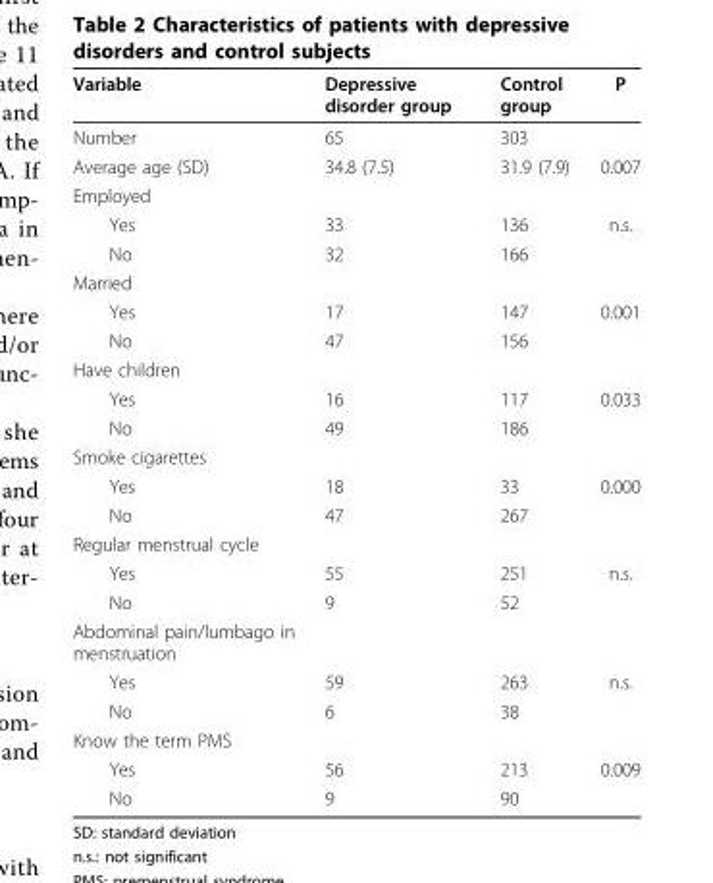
<table><thead><tr><td>Variable</td><td>Depressive disorder group</td><td>Control group</td><td>P</td></tr></thead><tbody><tr><td>Number</td><td>65</td><td>303</td><td></td></tr><tr><td>Average age (SD)</td><td>34.8 (7.5)</td><td>31.9 (7.9)</td><td>0.007</td></tr><tr><td colspan="4">Employed</td></tr><tr><td>Yes</td><td>33</td><td>136</td><td>n.s.</td></tr><tr><td>No</td><td>32</td><td>166</td><td></td></tr><tr><td colspan="4">Married</td></tr><tr><td>Yes</td><td>17</td><td>147</td><td>0.001</td></tr><tr><td>No</td><td>47</td><td>156</td><td></td></tr><tr><td colspan="4">Have children</td></tr><tr><td>Yes</td><td>16</td><td>117</td><td>0.033</td></tr><tr><td>No</td><td>49</td><td>186</td><td></td></tr><tr><td colspan="4">Smoke cigarettes</td></tr><tr><td>Yes</td><td>18</td><td>33</td><td>0.000</td></tr><tr><td>No</td><td>47</td><td>267</td><td></td></tr><tr><td colspan="4">Regular menstrual cycle</td></tr><tr><td>Yes</td><td>55</td><td>251</td><td>n.s.</td></tr><tr><td>No</td><td>9</td><td>52</td><td></td></tr><tr><td colspan="4">Abdominal pain/lumbago in menstruation</td></tr><tr><td>Yes</td><td>59</td><td>263</td><td>n.s.</td></tr><tr><td>No</td><td>6</td><td>38</td><td></td></tr><tr><td colspan="4">Know the term PMS</td></tr><tr><td>Yes</td><td>56</td><td>213</td><td>0.009</td></tr><tr><td>No</td><td>9</td><td>90</td><td></td></tr></tbody></table>